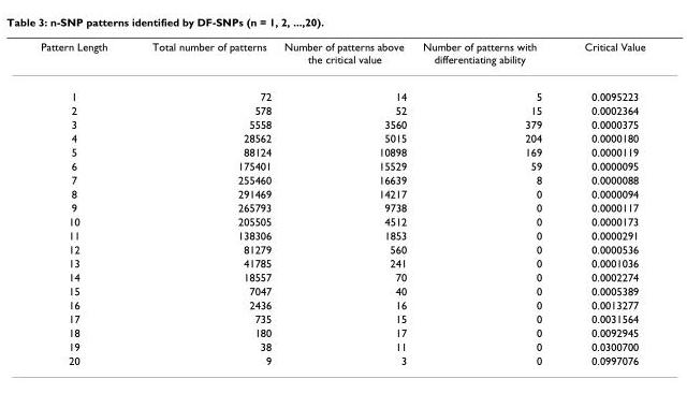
<table><thead><tr><td>Pattern Length</td><td>Total number of patterns</td><td>Number of patterns above the critical value</td><td>Number of patterns with differentiating ability</td><td>Critical Value</td></tr></thead><tbody><tr><td>1</td><td>72</td><td>14</td><td>5</td><td>0.0095223</td></tr><tr><td>2</td><td>578</td><td>52</td><td>15</td><td>0.0002364</td></tr><tr><td>3</td><td>5558</td><td>3560</td><td>379</td><td>0.0000375</td></tr><tr><td>4</td><td>28562</td><td>5015</td><td>204</td><td>0.0000180</td></tr><tr><td>5</td><td>88124</td><td>10898</td><td>169</td><td>0.0000119</td></tr><tr><td>6</td><td>175401</td><td>15529</td><td>59</td><td>0.0000095</td></tr><tr><td>7</td><td>255460</td><td>16639</td><td>8</td><td>0.0000088</td></tr><tr><td>8</td><td>291469</td><td>14217</td><td>0</td><td>0.0000094</td></tr><tr><td>9</td><td>265793</td><td>9738</td><td>0</td><td>0.0000117</td></tr><tr><td>10</td><td>205505</td><td>4512</td><td>0</td><td>0.0000173</td></tr><tr><td>11</td><td>138306</td><td>1853</td><td>0</td><td>0.0000291</td></tr><tr><td>12</td><td>81279</td><td>560</td><td>0</td><td>0.0000536</td></tr><tr><td>13</td><td>41785</td><td>241</td><td>0</td><td>0.0001036</td></tr><tr><td>14</td><td>18557</td><td>70</td><td>0</td><td>0.0002274</td></tr><tr><td>15</td><td>7047</td><td>40</td><td>0</td><td>0.0005389</td></tr><tr><td>16</td><td>2436</td><td>16</td><td>0</td><td>0.0013277</td></tr><tr><td>17</td><td>735</td><td>15</td><td>0</td><td>0.0031564</td></tr><tr><td>18</td><td>180</td><td>17</td><td>0</td><td>0.0092945</td></tr><tr><td>19</td><td>38</td><td>11</td><td>0</td><td>0.0300700</td></tr><tr><td>20</td><td>9</td><td>3</td><td>0</td><td>0.0997076</td></tr></tbody></table>